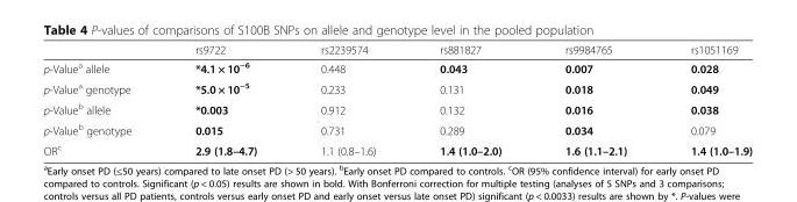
<table><thead><tr><td></td><td>rs9722</td><td>rs2239574</td><td>rs881827</td><td>rs9984765</td><td>rs1051169</td></tr></thead><tbody><tr><td>p-Value<sup>a</sup> allele</td><td>*4.1 × 10<sup>−6</sup></td><td>0.448</td><td>0.043</td><td>0.007</td><td>0.028</td></tr><tr><td>p-Value<sup>a</sup> genotype</td><td>*5.0 × 10<sup>−5</sup></td><td>0.233</td><td>0.131</td><td>0.018</td><td>0.049</td></tr><tr><td>p-Value<sup>b</sup> allele</td><td>*0.003</td><td>0.912</td><td>0.132</td><td>0.016</td><td>0.038</td></tr><tr><td>p-Value<sup>b</sup> genotype</td><td>0.015</td><td>0.731</td><td>0.289</td><td>0.034</td><td>0.079</td></tr><tr><td>OR<sup>c</sup></td><td>2.9 (1.8–4.7)</td><td>1.1 (0.8–1.6)</td><td>1.4 (1.0–2.0)</td><td>1.6 (1.1–2.1)</td><td>1.4 (1.0–1.9)</td></tr></tbody></table>